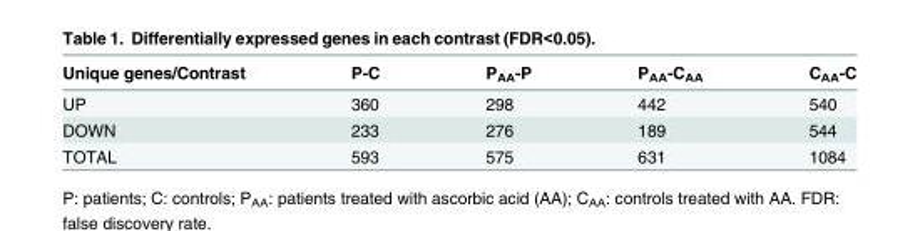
<table><thead><tr><td>Unique genes/Contrast</td><td>P-C</td><td>P<sub>AA</sub>-P</td><td>P<sub>AA</sub>-C<sub>AA</sub></td><td>C<sub>AA</sub>-C</td></tr></thead><tbody><tr><td>UP</td><td>360</td><td>298</td><td>442</td><td>540</td></tr><tr><td>DOWN</td><td>233</td><td>276</td><td>189</td><td>544</td></tr><tr><td>TOTAL</td><td>593</td><td>575</td><td>631</td><td>1084</td></tr></tbody></table>